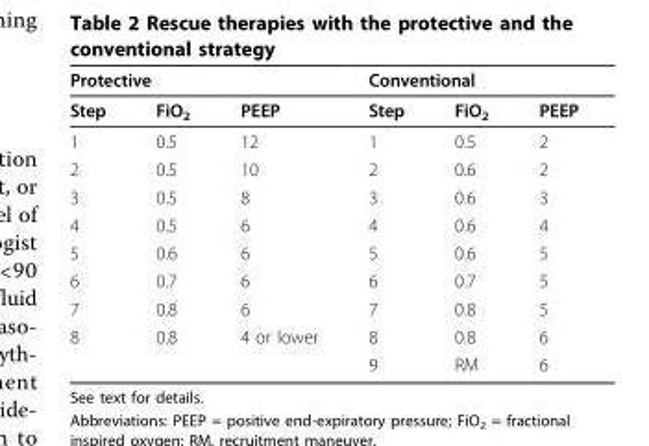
<table><thead><tr><td colspan="3">Protective</td><td colspan="3">Conventional</td></tr><tr><td>Step</td><td>FiO<sub>2</sub></td><td>PEEP</td><td>Step</td><td>FiO<sub>2</sub></td><td>PEEP</td></tr></thead><tbody><tr><td>1</td><td>0.5</td><td>12</td><td>1</td><td>0.5</td><td>2</td></tr><tr><td>2</td><td>0.5</td><td>10</td><td>2</td><td>0.6</td><td>2</td></tr><tr><td>3</td><td>0.5</td><td>8</td><td>3</td><td>0.6</td><td>3</td></tr><tr><td>4</td><td>0.5</td><td>6</td><td>4</td><td>0.6</td><td>4</td></tr><tr><td>5</td><td>0.6</td><td>6</td><td>5</td><td>0.6</td><td>5</td></tr><tr><td>6</td><td>0.7</td><td>6</td><td>6</td><td>0.7</td><td>5</td></tr><tr><td>7</td><td>0.8</td><td>6</td><td>7</td><td>0.8</td><td>5</td></tr><tr><td rowspan="2">8</td><td>0.8</td><td>4 or lower</td><td>8</td><td>0.8</td><td>6</td></tr><tr><td></td><td></td><td>9</td><td>RM</td><td>6</td></tr></tbody></table>